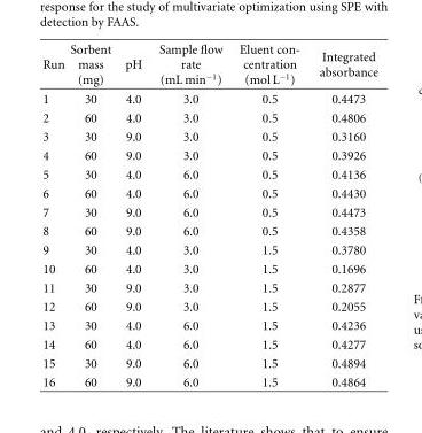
<table><thead><tr><td>Run</td><td>Sorbent mass (mg)</td><td>pH</td><td>Sample flow rate (mL min<sup>−1</sup>)</td><td>Eluent con- centration (mol L−1)</td><td>Integrated absorbance</td></tr></thead><tbody><tr><td>1</td><td>30</td><td>4.0</td><td>3.0</td><td>0.5</td><td>0.4473</td></tr><tr><td>2</td><td>60</td><td>4.0</td><td>3.0</td><td>0.5</td><td>0.4806</td></tr><tr><td>3</td><td>30</td><td>9.0</td><td>3.0</td><td>0.5</td><td>0.3160</td></tr><tr><td>4</td><td>60</td><td>9.0</td><td>3.0</td><td>0.5</td><td>0.3926</td></tr><tr><td>5</td><td>30</td><td>4.0</td><td>6.0</td><td>0.5</td><td>0.4136</td></tr><tr><td>6</td><td>60</td><td>4.0</td><td>6.0</td><td>0.5</td><td>0.4430</td></tr><tr><td>7</td><td>30</td><td>9.0</td><td>6.0</td><td>0.5</td><td>0.4473</td></tr><tr><td>8</td><td>60</td><td>9.0</td><td>6.0</td><td>0.5</td><td>0.4358</td></tr><tr><td>9</td><td>30</td><td>4.0</td><td>3.0</td><td>1.5</td><td>0.3780</td></tr><tr><td>10</td><td>60</td><td>4.0</td><td>3.0</td><td>1.5</td><td>0.1696</td></tr><tr><td>11</td><td>30</td><td>9.0</td><td>3.0</td><td>1.5</td><td>0.2877</td></tr><tr><td>12</td><td>60</td><td>9.0</td><td>3.0</td><td>1.5</td><td>0.2055</td></tr><tr><td>13</td><td>30</td><td>4.0</td><td>6.0</td><td>1.5</td><td>0.4236</td></tr><tr><td>14</td><td>60</td><td>4.0</td><td>6.0</td><td>1.5</td><td>0.4277</td></tr><tr><td>15</td><td>30</td><td>9.0</td><td>6.0</td><td>1.5</td><td>0.4894</td></tr><tr><td>16</td><td>60</td><td>9.0</td><td>6.0</td><td>1.5</td><td>0.4864</td></tr></tbody></table>